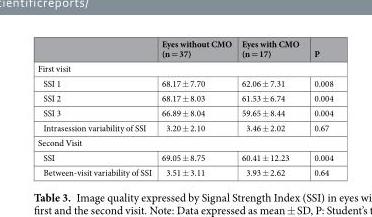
<table><thead><tr><td></td><td>Eyes without CMO (n = 37)</td><td>Eyes with CMO (n = 17)</td><td>P</td></tr></thead><tbody><tr><td colspan="4">First visit</td></tr><tr><td>SSI 1</td><td>68.17 ± 7.70</td><td>62.06 ± 7.31</td><td>0.008</td></tr><tr><td>SSI 2</td><td>68.17 ± 8.03</td><td>61.53 ± 6.74</td><td>0.004</td></tr><tr><td>SSI 3</td><td>66.89 ± 8.04</td><td>59.65 ± 8.44</td><td>0.004</td></tr><tr><td>Intrasession variability of SSI</td><td>3.20 ± 2.10</td><td>3.46 ± 2.02</td><td>0.67</td></tr><tr><td colspan="4">Second Visit</td></tr><tr><td>SSI</td><td>69.05 ± 8.75</td><td>60.41 ± 12.23</td><td>0.004</td></tr><tr><td>Between-visit variability of SSI</td><td>3.51 ± 3.11</td><td>3.93 ± 2.62</td><td>0.64</td></tr></tbody></table>